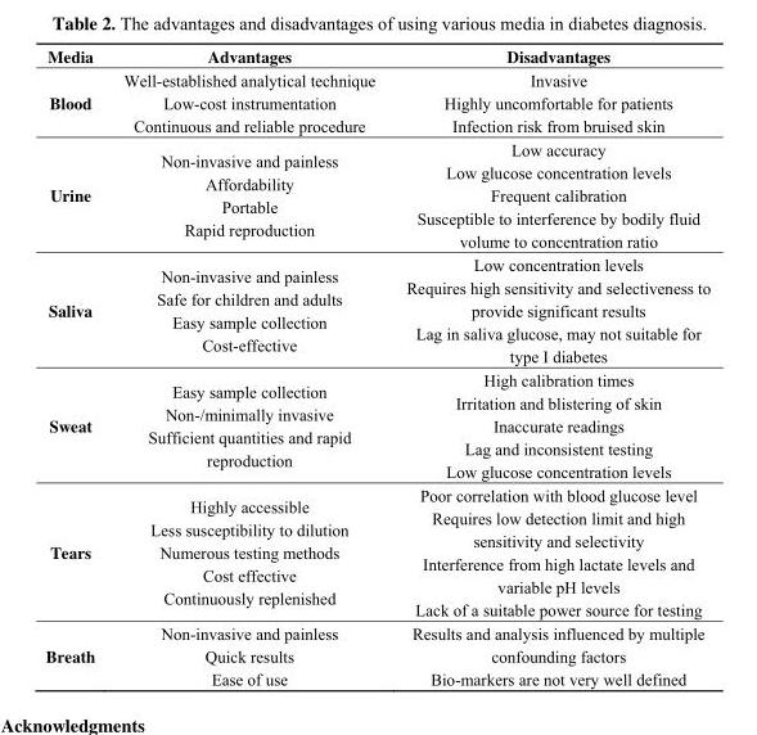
<table><thead><tr><td>Media</td><td>Advantages</td><td>Disadvantages</td></tr></thead><tbody><tr><td>Blood</td><td>Well-established analytical technique Low-cost instrumentation Continuous and reliable procedure</td><td>Invasive Highly uncomfortable for patients Infection risk from bruised skin</td></tr><tr><td>Urine</td><td>Non-invasive and painless Affordability Portable Rapid reproduction</td><td>Low accuracy Low glucose concentration levels Frequent calibration Susceptible to interference by bodily fluid volume to concentration ratio</td></tr><tr><td>Saliva</td><td>Non-invasive and painless Safe for children and adults Easy sample collection Cost-effective</td><td>Low concentration levels Requires high sensitivity and selectiveness to provide significant results Lag in saliva glucose, may not suitable for type I diabetes</td></tr><tr><td>Sweat</td><td>Easy sample collection Non-/minimally invasive Sufficient quantities and rapid reproduction</td><td>High calibration times Irritation and blistering of skin Inaccurate readings Lag and inconsistent testing Low glucose concentration levels</td></tr><tr><td>Tears</td><td>Highly accessible Less susceptibility to dilution Numerous testing methods Cost effective Continuously replenished</td><td>Poor correlation with blood glucose level Requires low detection limit and high sensitivity and selectivity Interference from high lactate levels and variable pH levels Lack of a suitable power source for testing</td></tr><tr><td>Breath</td><td>Non-invasive and painless Quick results Ease of use</td><td>Results and analysis influenced by multiple confounding factors Bio-markers are not very well defined</td></tr></tbody></table>